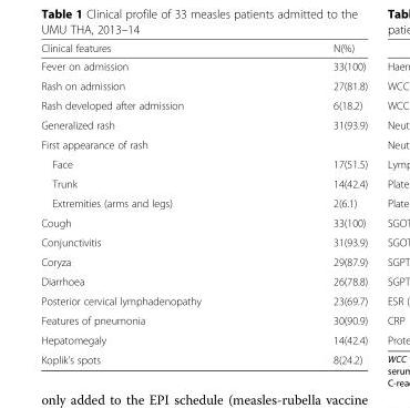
<table><thead><tr><td>Clinical features</td><td>N(%)</td></tr></thead><tbody><tr><td>Fever on admission</td><td>33(100)</td></tr><tr><td>Rash on admission</td><td>27(81.8)</td></tr><tr><td>Rash developed after admission</td><td>6(18.2)</td></tr><tr><td>Generalized rash</td><td>31(93.9)</td></tr><tr><td colspan="2">First appearance of rash</td></tr><tr><td>Face</td><td>17(51.5)</td></tr><tr><td>Trunk</td><td>14(42.4)</td></tr><tr><td>Extremities (arms and legs)</td><td>2(6.1)</td></tr><tr><td>Cough</td><td>33(100)</td></tr><tr><td>Conjunctivitis</td><td>31(93.9)</td></tr><tr><td>Coryza</td><td>29(87.9)</td></tr><tr><td>Diarrhoea</td><td>26(78.8)</td></tr><tr><td>Posterior cervical lymphadenopathy</td><td>23(69.7)</td></tr><tr><td>Features of pneumonia</td><td>30(90.9)</td></tr><tr><td>Hepatomegaly</td><td>14(42.4)</td></tr><tr><td>Koplik’s spots</td><td>8(24.2)</td></tr></tbody></table>